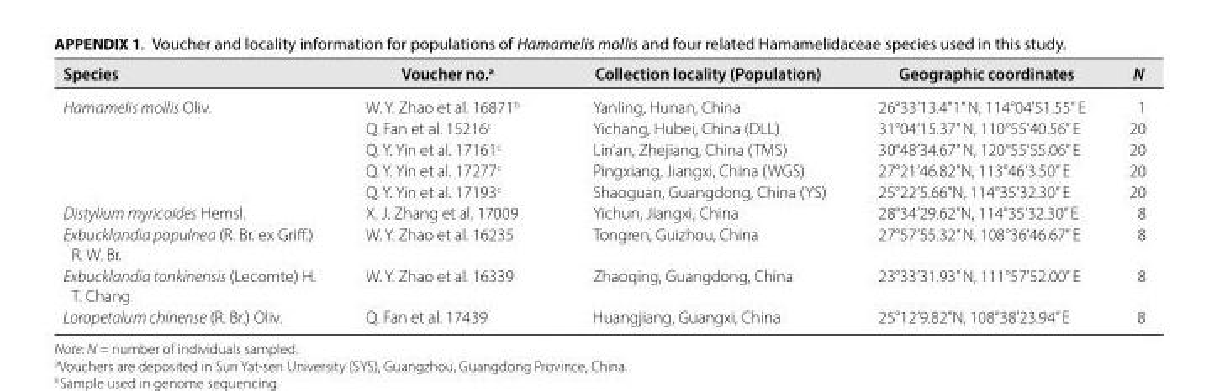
<table><thead><tr><td>Species</td><td>Voucher no.<sup>a</sup></td><td>Collection locality (Population)</td><td>Geographic coordinates</td><td>N</td></tr></thead><tbody><tr><td rowspan="5">Hamamelis mollis Oliv.</td><td>W. Y. Zhao et al. 16871<sup>b</sup></td><td>Yanling, Hunan, China</td><td>26°33’13.4”1” N, 114°04’51.55” E</td><td>1</td></tr><tr><td>Q. Fan et al. 15216<sup>c</sup></td><td>Yichang, Hubei, China (DLL)</td><td>31°04’15.37” N, 110°55’40.56” E</td><td>20</td></tr><tr><td>Q. Y. Yin et al. 17161<sup>c</sup></td><td>Lin’an, Zhejiang, China (TMS)</td><td>30°48’34.67” N, 120°55’55.06” E</td><td>20</td></tr><tr><td>Q. Y. Yin et al. 17277<sup>c</sup></td><td>Pingxiang, Jiangxi, China (WGS)</td><td>27°21’46.82”N, 113°46’3.50” E</td><td>20</td></tr><tr><td>Q. Y. Yin et al. 17193<sup>c</sup></td><td>Shaoguan, Guangdong, China (YS)</td><td>25°22’5.66”N, 114°35’32.30” E</td><td>20</td></tr><tr><td>Distylium myricoides Hemsl.</td><td>X. J. Zhang et al. 17009</td><td>Yichun, Jiangxi, China</td><td>28°34’29.62”N, 114°35’32.30” E</td><td>8</td></tr><tr><td>Exbucklandia populnea (R. Br. ex Griff.) R. W. Br.</td><td>W. Y. Zhao et al. 16235</td><td>Tongren, Guizhou, China</td><td>27°57’55.32” N, 108°36’46.67” E</td><td>8</td></tr><tr><td>Exbucklandia tonkinensis (Lecomte) H. T. Chang</td><td>W. Y. Zhao et al. 16339</td><td>Zhaoqing, Guangdong, China</td><td>23°33’31.93” N, 111°57’52.00” E</td><td>8</td></tr><tr><td>Loropetalum chinense (R. Br.) Oliv.</td><td>Q. Fan et al. 17439</td><td>Huangjiang, Guangxi, China</td><td>25°12’9.82”N, 108°38’23.94” E</td><td>8</td></tr></tbody></table>